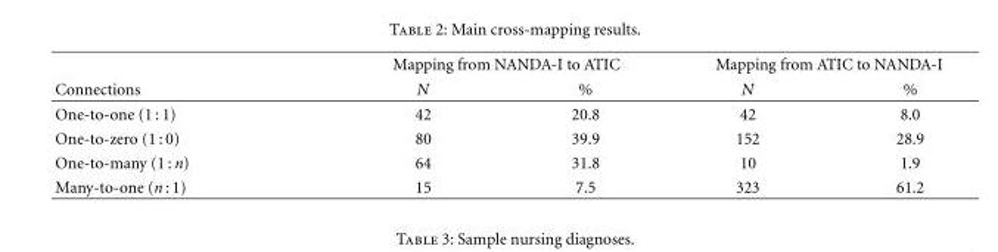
<table><thead><tr><td rowspan="2">Connections</td><td colspan="2">Mapping from NANDA-I to ATIC</td><td colspan="2">Mapping from ATIC to NANDA-I</td></tr><tr><td>N</td><td>%</td><td>N</td><td>%</td></tr></thead><tbody><tr><td>One-to-one (1 : 1)</td><td>42</td><td>20.8</td><td>42</td><td>8.0</td></tr><tr><td>One-to-zero (1 : 0)</td><td>80</td><td>39.9</td><td>152</td><td>28.9</td></tr><tr><td>One-to-many (1 : n)</td><td>64</td><td>31.8</td><td>10</td><td>1.9</td></tr><tr><td>Many-to-one (n : 1)</td><td>15</td><td>7.5</td><td>323</td><td>61.2</td></tr></tbody></table>